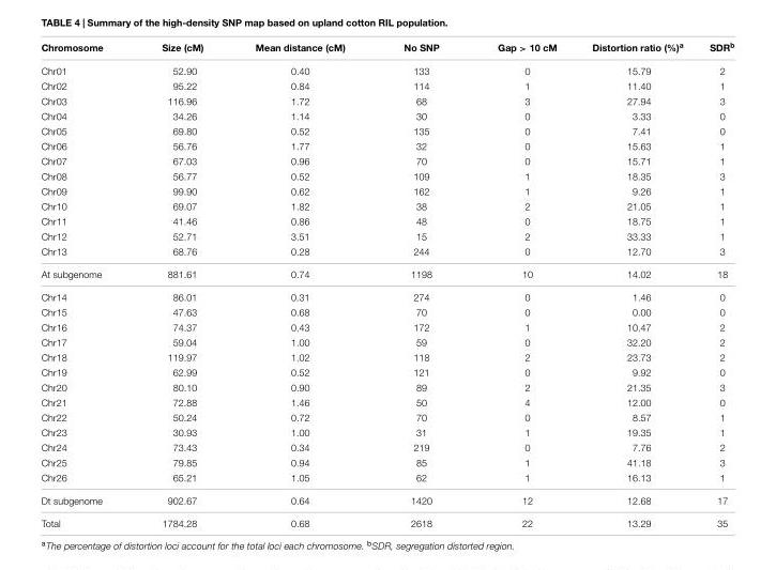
<table><thead><tr><td>Chromosome</td><td>Size (cM)</td><td>Mean distance (cM)</td><td>No SNP</td><td>Gap &gt; 10 cM</td><td>Distortion ratio (%)<sup>a</sup></td><td>SDR<sup>b</sup></td></tr></thead><tbody><tr><td>Chr01</td><td>52.90</td><td>0.40</td><td>133</td><td>0</td><td>15.79</td><td>2</td></tr><tr><td>Chr02</td><td>95.22</td><td>0.84</td><td>114</td><td>1</td><td>11.40</td><td>1</td></tr><tr><td>Chr03</td><td>116.96</td><td>1.72</td><td>68</td><td>3</td><td>27.94</td><td>3</td></tr><tr><td>Chr04</td><td>34.26</td><td>1.14</td><td>30</td><td>0</td><td>3.33</td><td>0</td></tr><tr><td>Chr05</td><td>69.80</td><td>0.52</td><td>135</td><td>0</td><td>7.41</td><td>0</td></tr><tr><td>Chr06</td><td>56.76</td><td>1.77</td><td>32</td><td>0</td><td>15.63</td><td>1</td></tr><tr><td>Chr07</td><td>67.03</td><td>0.96</td><td>70</td><td>0</td><td>15.71</td><td>1</td></tr><tr><td>Chr08</td><td>56.77</td><td>0.52</td><td>109</td><td>1</td><td>18.35</td><td>3</td></tr><tr><td>Chr09</td><td>99.90</td><td>0.62</td><td>162</td><td>1</td><td>9.26</td><td>1</td></tr><tr><td>Chr10</td><td>69.07</td><td>1.82</td><td>38</td><td>2</td><td>21.05</td><td>1</td></tr><tr><td>Chr11</td><td>41.46</td><td>0.86</td><td>48</td><td>0</td><td>18.75</td><td>1</td></tr><tr><td>Chr12</td><td>52.71</td><td>3.51</td><td>15</td><td>2</td><td>33.33</td><td>1</td></tr><tr><td>Chr13</td><td>68.76</td><td>0.28</td><td>244</td><td>0</td><td>12.70</td><td>3</td></tr><tr><td>At subgenome</td><td>881.61</td><td>0.74</td><td>1198</td><td>10</td><td>14.02</td><td>18</td></tr><tr><td>Chr14</td><td>86.01</td><td>0.31</td><td>274</td><td>0</td><td>1.46</td><td>0</td></tr><tr><td>Chr15</td><td>47.63</td><td>0.68</td><td>70</td><td>0</td><td>0.00</td><td>0</td></tr><tr><td>Chr16</td><td>74.37</td><td>0.43</td><td>172</td><td>1</td><td>10.47</td><td>2</td></tr><tr><td>Chr17</td><td>59.04</td><td>1.00</td><td>59</td><td>0</td><td>32.20</td><td>2</td></tr><tr><td>Chr18</td><td>119.97</td><td>1.02</td><td>118</td><td>2</td><td>23.73</td><td>2</td></tr><tr><td>Chr19</td><td>62.99</td><td>0.52</td><td>121</td><td>0</td><td>9.92</td><td>0</td></tr><tr><td>Chr20</td><td>80.10</td><td>0.90</td><td>89</td><td>2</td><td>21.35</td><td>3</td></tr><tr><td>Chr21</td><td>72.88</td><td>1.46</td><td>50</td><td>4</td><td>12.00</td><td>0</td></tr><tr><td>Chr22</td><td>50.24</td><td>0.72</td><td>70</td><td>0</td><td>8.57</td><td>1</td></tr><tr><td>Chr23</td><td>30.93</td><td>1.00</td><td>31</td><td>1</td><td>19.35</td><td>1</td></tr><tr><td>Chr24</td><td>73.43</td><td>0.34</td><td>219</td><td>0</td><td>7.76</td><td>2</td></tr><tr><td>Chr25</td><td>79.85</td><td>0.94</td><td>85</td><td>1</td><td>41.18</td><td>3</td></tr><tr><td>Chr26</td><td>65.21</td><td>1.05</td><td>62</td><td>1</td><td>16.13</td><td>1</td></tr><tr><td>Dt subgenome</td><td>902.67</td><td>0.64</td><td>1420</td><td>12</td><td>12.68</td><td>17</td></tr><tr><td>Total</td><td>1784.28</td><td>0.68</td><td>2618</td><td>22</td><td>13.29</td><td>35</td></tr></tbody></table>